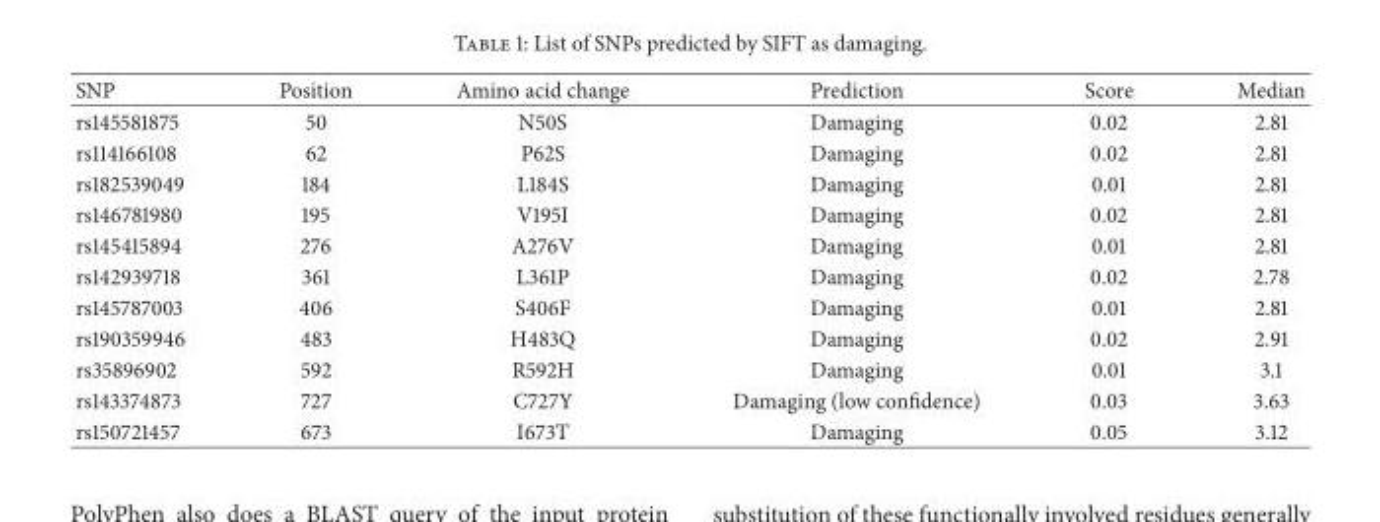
<table><thead><tr><td>SNP</td><td>Position</td><td>Amino acid change</td><td>Prediction</td><td>Score</td><td>Median</td></tr></thead><tbody><tr><td>rs145581875</td><td>50</td><td>N50S</td><td>Damaging</td><td>0.02</td><td>2.81</td></tr><tr><td>rs114166108</td><td>62</td><td>P62S</td><td>Damaging</td><td>0.02</td><td>2.81</td></tr><tr><td>rs182539049</td><td>184</td><td>L184S</td><td>Damaging</td><td>0.01</td><td>2.81</td></tr><tr><td>rs146781980</td><td>195</td><td>V195I</td><td>Damaging</td><td>0.02</td><td>2.81</td></tr><tr><td>rs145415894</td><td>276</td><td>A276V</td><td>Damaging</td><td>0.01</td><td>2.81</td></tr><tr><td>rs142939718</td><td>361</td><td>L361P</td><td>Damaging</td><td>0.02</td><td>2.78</td></tr><tr><td>rs145787003</td><td>406</td><td>S406F</td><td>Damaging</td><td>0.01</td><td>2.81</td></tr><tr><td>rs190359946</td><td>483</td><td>H483Q</td><td>Damaging</td><td>0.02</td><td>2.91</td></tr><tr><td>rs35896902</td><td>592</td><td>R592H</td><td>Damaging</td><td>0.01</td><td>3.1</td></tr><tr><td>rs143374873</td><td>727</td><td>C727Y</td><td>Damaging (low confidence)</td><td>0.03</td><td>3.63</td></tr><tr><td>rs150721457</td><td>673</td><td>I673T</td><td>Damaging</td><td>0.05</td><td>3.12</td></tr></tbody></table>